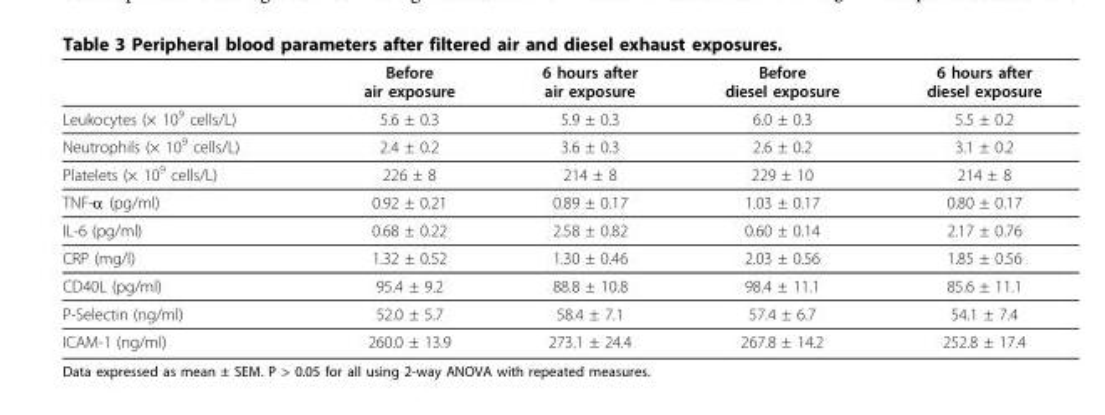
<table><thead><tr><td></td><td>Before air exposure</td><td>6 hours after air exposure</td><td>Before diesel exposure</td><td>6 hours after diesel exposure</td></tr></thead><tbody><tr><td>Leukocytes (× 10<sup>9</sup> cells/L)</td><td>5.6 ± 0.3</td><td>5.9 ± 0.3</td><td>6.0 ± 0.3</td><td>5.5 ± 0.2</td></tr><tr><td>Neutrophils (× 10<sup>9</sup> cells/L)</td><td>2.4 ± 0.2</td><td>3.6 ± 0.3</td><td>2.6 ± 0.2</td><td>3.1 ± 0.2</td></tr><tr><td>Platelets (× 10<sup>9</sup> cells/L)</td><td>226 ± 8</td><td>214 ± 8</td><td>229 ± 10</td><td>214 ± 8</td></tr><tr><td>TNF-α (pg/ml)</td><td>0.92 ± 0.21</td><td>0.89 ± 0.17</td><td>1.03 ± 0.17</td><td>0.80 ± 0.17</td></tr><tr><td>IL-6 (pg/ml)</td><td>0.68 ± 0.22</td><td>2.58 ± 0.82</td><td>0.60 ± 0.14</td><td>2.17 ± 0.76</td></tr><tr><td>CRP (mg/l)</td><td>1.32 ± 0.52</td><td>1.30 ± 0.46</td><td>2.03 ± 0.56</td><td>1.85 ± 0.56</td></tr><tr><td>CD40L (pg/ml)</td><td>95.4 ± 9.2</td><td>88.8 ± 10.8</td><td>98.4 ± 11.1</td><td>85.6 ± 11.1</td></tr><tr><td>P-Selectin (ng/ml)</td><td>52.0 ± 5.7</td><td>58.4 ± 7.1</td><td>57.4 ± 6.7</td><td>54.1 ± 7.4</td></tr><tr><td>ICAM-1 (ng/ml)</td><td>260.0 ± 13.9</td><td>273.1 ± 24.4</td><td>267.8 ± 14.2</td><td>252.8 ± 17.4</td></tr></tbody></table>